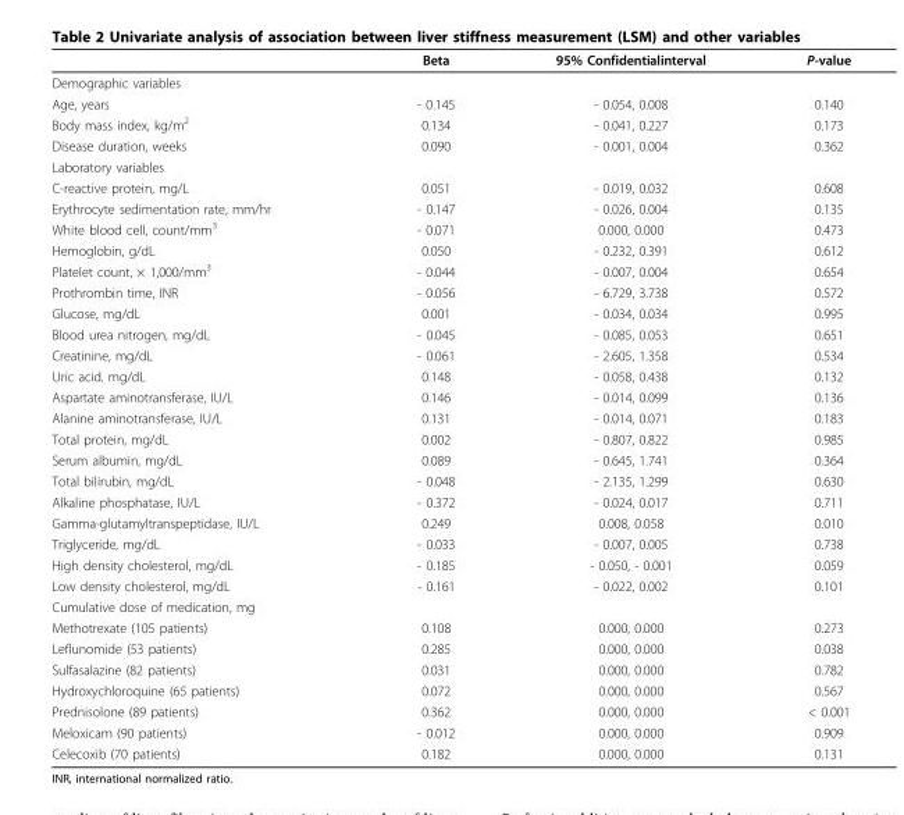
<table><thead><tr><td></td><td>Beta</td><td>95% Confidentialinterval</td><td>P-value</td></tr></thead><tbody><tr><td colspan="4">Demographic variables</td></tr><tr><td>Age, years</td><td>- 0.145</td><td>- 0.054, 0.008</td><td>0.140</td></tr><tr><td>Body mass index, kg/m<sup>2</sup></td><td>0.134</td><td>- 0.041, 0.227</td><td>0.173</td></tr><tr><td>Disease duration, weeks</td><td>0.090</td><td>- 0.001, 0.004</td><td>0.362</td></tr><tr><td colspan="4">Laboratory variables</td></tr><tr><td>C-reactive protein, mg/L</td><td>0.051</td><td>- 0.019, 0.032</td><td>0.608</td></tr><tr><td>Erythrocyte sedimentation rate, mm/hr</td><td>- 0.147</td><td>- 0.026, 0.004</td><td>0.135</td></tr><tr><td>White blood cell, count/mm<sup>3</sup></td><td>- 0.071</td><td>0.000, 0.000</td><td>0.473</td></tr><tr><td>Hemoglobin, g/dL</td><td>0.050</td><td>- 0.232, 0.391</td><td>0.612</td></tr><tr><td>Platelet count, × 1,000/mm<sup>3</sup></td><td>- 0.044</td><td>- 0.007, 0.004</td><td>0.654</td></tr><tr><td>Prothrombin time, INR</td><td>- 0.056</td><td>- 6.729, 3.738</td><td>0.572</td></tr><tr><td>Glucose, mg/dL</td><td>0.001</td><td>- 0.034, 0.034</td><td>0.995</td></tr><tr><td>Blood urea nitrogen, mg/dL</td><td>- 0.045</td><td>- 0.085, 0.053</td><td>0.651</td></tr><tr><td>Creatinine, mg/dL</td><td>- 0.061</td><td>- 2.605, 1.358</td><td>0.534</td></tr><tr><td>Uric acid. mg/dL</td><td>0.148</td><td>- 0.058, 0.438</td><td>0.132</td></tr><tr><td>Aspartate aminotransferase, IU/L</td><td>0.146</td><td>- 0.014, 0.099</td><td>0.136</td></tr><tr><td>Alanine aminotransferase, IU/L</td><td>0.131</td><td>- 0.014, 0.071</td><td>0.183</td></tr><tr><td>Total protein, mg/dL</td><td>0.002</td><td>- 0.807, 0.822</td><td>0.985</td></tr><tr><td>Serum albumin, mg/dL</td><td>0.089</td><td>- 0.645, 1.741</td><td>0.364</td></tr><tr><td>Total bilirubin, mg/dL</td><td>- 0.048</td><td>- 2.135, 1.299</td><td>0.630</td></tr><tr><td>Alkaline phosphatase, IU/L</td><td>- 0.372</td><td>- 0.024, 0.017</td><td>0.711</td></tr><tr><td>Gamma-glutamyltranspeptidase, IU/L</td><td>0.249</td><td>0.008, 0.058</td><td>0.010</td></tr><tr><td>Triglyceride, mg/dL</td><td>- 0.033</td><td>- 0.007, 0.005</td><td>0.738</td></tr><tr><td>High density cholesterol, mg/dL</td><td>- 0.185</td><td>- 0.050, - 0.001</td><td>0.059</td></tr><tr><td>Low density cholesterol, mg/dL</td><td>- 0.161</td><td>- 0.022, 0.002</td><td>0.101</td></tr><tr><td colspan="4">Cumulative dose of medication, mg</td></tr><tr><td>Methotrexate (105 patients)</td><td>0.108</td><td>0.000, 0.000</td><td>0.273</td></tr><tr><td>Leflunomide (53 patients)</td><td>0.285</td><td>0.000, 0.000</td><td>0.038</td></tr><tr><td>Sulfasalazine (82 patients)</td><td>0.031</td><td>0.000, 0.000</td><td>0.782</td></tr><tr><td>Hydroxychloroquine (65 patients)</td><td>0.072</td><td>0.000, 0.000</td><td>0.567</td></tr><tr><td>Prednisolone (89 patients)</td><td>0.362</td><td>0.000, 0.000</td><td>&lt; 0.001</td></tr><tr><td>Meloxicam (90 patients)</td><td>- 0.012</td><td>0.000, 0.000</td><td>0.909</td></tr><tr><td>Celecoxib (70 patients)</td><td>0.182</td><td>0.000, 0.000</td><td>0.131</td></tr></tbody></table>